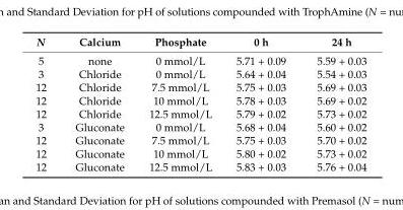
<table><thead><tr><td>N</td><td>Calcium</td><td>Phosphate</td><td>0 h</td><td>24 h</td></tr></thead><tbody><tr><td>5</td><td>none</td><td>0 mmol/L</td><td>5.71 + 0.09</td><td>5.59 + 0.03</td></tr><tr><td>3</td><td>Chloride</td><td>0 mmol/L</td><td>5.64 + 0.04</td><td>5.54 + 0.03</td></tr><tr><td>12</td><td>Chloride</td><td>7.5 mmol/L</td><td>5.75 + 0.03</td><td>5.69 + 0.03</td></tr><tr><td>12</td><td>Chloride</td><td>10 mmol/L</td><td>5.78 + 0.03</td><td>5.69 + 0.02</td></tr><tr><td>12</td><td>Chloride</td><td>12.5 mmol/L</td><td>5.79 + 0.02</td><td>5.73 + 0.02</td></tr><tr><td>3</td><td>Gluconate</td><td>0 mmol/L</td><td>5.68 + 0.04</td><td>5.60 + 0.02</td></tr><tr><td>12</td><td>Gluconate</td><td>7.5 mmol/L</td><td>5.75 + 0.03</td><td>5.70 + 0.02</td></tr><tr><td>12</td><td>Gluconate</td><td>10 mmol/L</td><td>5.80 + 0.02</td><td>5.73 + 0.02</td></tr><tr><td>12</td><td>Gluconate</td><td>12.5 mmol/L</td><td>5.83 + 0.03</td><td>5.76 + 0.04</td></tr></tbody></table>